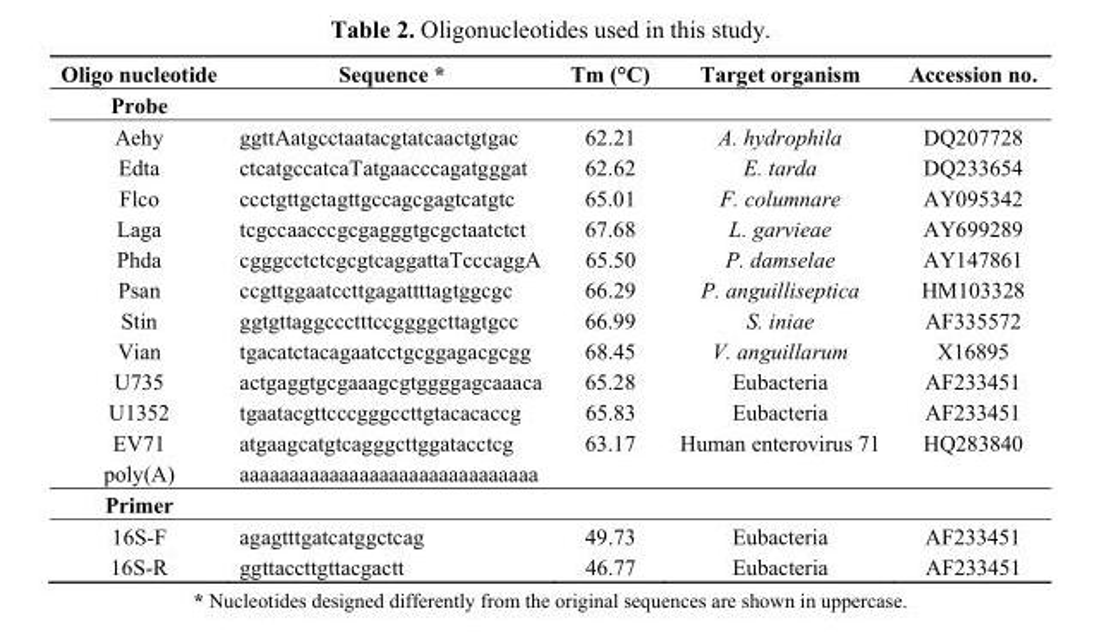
<table><thead><tr><td>Oligo nucleotide</td><td>Sequence *</td><td>Tm (°C)</td><td>Target organism</td><td>Accession no.</td></tr></thead><tbody><tr><td colspan="5">Probe</td></tr><tr><td>Aehy</td><td>ggttAatgcctaatacgtatcaactgtgac</td><td>62.21</td><td>A. hydrophila</td><td>DQ207728</td></tr><tr><td>Edta</td><td>ctcatgccatcaTatgaacccagatgggat</td><td>62.62</td><td>E. tarda</td><td>DQ233654</td></tr><tr><td>Flco</td><td>ccctgttgctagttgccagcgagtcatgtc</td><td>65.01</td><td>F. columnare</td><td>AY095342</td></tr><tr><td>Laga</td><td>tcgccaacccgcgagggtgcgctaatctct</td><td>67.68</td><td>L. garvieae</td><td>AY699289</td></tr><tr><td>Phda</td><td>cgggcctctcgcgtcaggattaTcccaggA</td><td>65.50</td><td>P. damselae</td><td>AY147861</td></tr><tr><td>Psan</td><td>ccgttggaatccttgagattttagtggcgc</td><td>66.29</td><td>P. anguilliseptica</td><td>HM103328</td></tr><tr><td>Stin</td><td>ggtgttaggccctttccggggcttagtgcc</td><td>66.99</td><td>S. iniae</td><td>AF335572</td></tr><tr><td>Vian</td><td>tgacatctacagaatcctgcggagacgcgg</td><td>68.45</td><td>V. anguillarum</td><td>X16895</td></tr><tr><td>U735</td><td>actgaggtgcgaaagcgtggggagcaaaca</td><td>65.28</td><td>Eubacteria</td><td>AF233451</td></tr><tr><td>U1352</td><td>tgaatacgttcccgggccttgtacacaccg</td><td>65.83</td><td>Eubacteria</td><td>AF233451</td></tr><tr><td>EV71</td><td>atgaagcatgtcagggcttggatacctcg</td><td>63.17</td><td>Human enterovirus 71</td><td>HQ283840</td></tr><tr><td>poly(A)</td><td>aaaaaaaaaaaaaaaaaaaaaaaaaaaaaa</td><td></td><td></td><td></td></tr><tr><td colspan="5">Primer</td></tr><tr><td>16S-F</td><td>agagtttgatcatggctcag</td><td>49.73</td><td>Eubacteria</td><td>AF233451</td></tr><tr><td>16S-R</td><td>ggttaccttgttacgactt</td><td>46.77</td><td>Eubacteria</td><td>AF233451</td></tr></tbody></table>